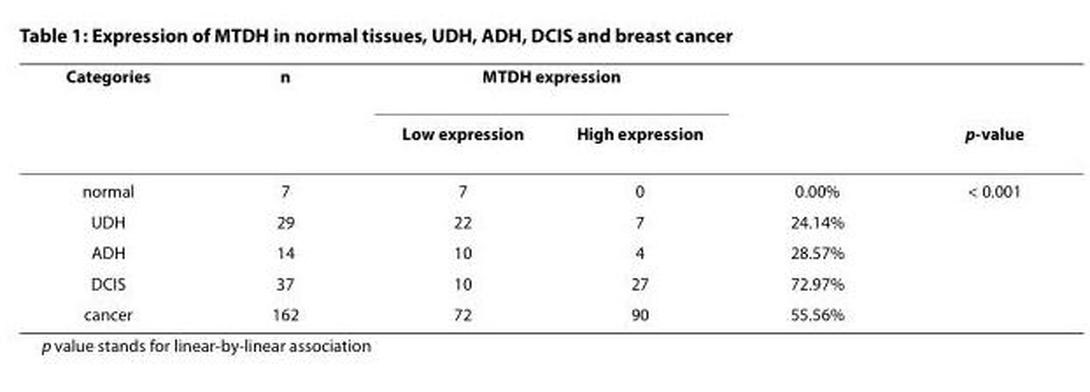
<table><thead><tr><td rowspan="2">Categories</td><td rowspan="2">n</td><td colspan="2">MTDH expression</td><td rowspan="2"></td><td rowspan="2">p-value</td></tr><tr><td>Low expression</td><td>High expression</td></tr></thead><tbody><tr><td>normal</td><td>7</td><td>7</td><td>0</td><td>0.00%</td><td>&lt; 0.001</td></tr><tr><td>UDH</td><td>29</td><td>22</td><td>7</td><td>24.14%</td><td></td></tr><tr><td>ADH</td><td>14</td><td>10</td><td>4</td><td>28.57%</td><td></td></tr><tr><td>DCIS</td><td>37</td><td>10</td><td>27</td><td>72.97%</td><td></td></tr><tr><td>cancer</td><td>162</td><td>72</td><td>90</td><td>55.56%</td><td></td></tr></tbody></table>